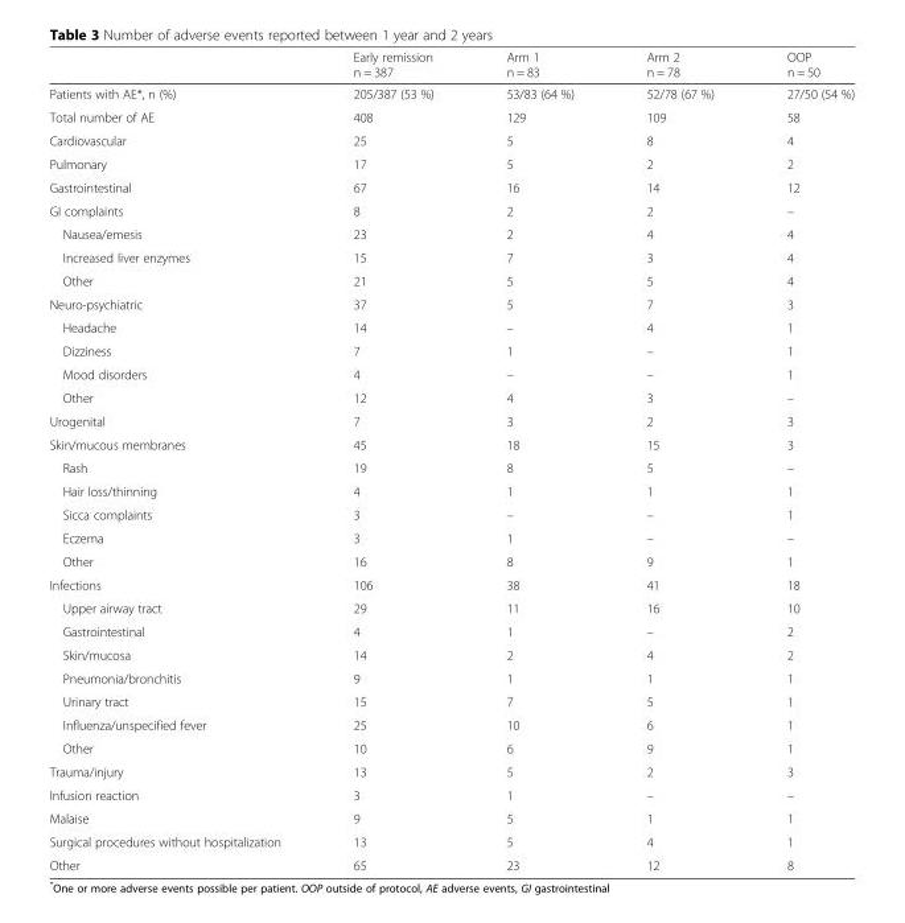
<table><thead><tr><td></td><td>Early remission n = 387</td><td>Arm 1 n = 83</td><td>Arm 2 n = 78</td><td>OOP n = 50</td></tr></thead><tbody><tr><td>Patients with AE*, n (%)</td><td>205/387 (53 %)</td><td>53/83 (64 %)</td><td>52/78 (67 %)</td><td>27/50 (54 %)</td></tr><tr><td>Total number of AE</td><td>408</td><td>129</td><td>109</td><td>58</td></tr><tr><td>Cardiovascular</td><td>25</td><td>5</td><td>8</td><td>4</td></tr><tr><td>Pulmonary</td><td>17</td><td>5</td><td>2</td><td>2</td></tr><tr><td>Gastrointestinal</td><td>67</td><td>16</td><td>14</td><td>12</td></tr><tr><td>GI complaints</td><td>8</td><td>2</td><td>2</td><td>–</td></tr><tr><td>Nausea/emesis</td><td>23</td><td>2</td><td>4</td><td>4</td></tr><tr><td>Increased liver enzymes</td><td>15</td><td>7</td><td>3</td><td>4</td></tr><tr><td>Other</td><td>21</td><td>5</td><td>5</td><td>4</td></tr><tr><td>Neuro-psychiatric</td><td>37</td><td>5</td><td>7</td><td>3</td></tr><tr><td>Headache</td><td>14</td><td>–</td><td>4</td><td>1</td></tr><tr><td>Dizziness</td><td>7</td><td>1</td><td>–</td><td>1</td></tr><tr><td>Mood disorders</td><td>4</td><td>–</td><td>–</td><td>1</td></tr><tr><td>Other</td><td>12</td><td>4</td><td>3</td><td>–</td></tr><tr><td>Urogenital</td><td>7</td><td>3</td><td>2</td><td>3</td></tr><tr><td>Skin/mucous membranes</td><td>45</td><td>18</td><td>15</td><td>3</td></tr><tr><td>Rash</td><td>19</td><td>8</td><td>5</td><td>–</td></tr><tr><td>Hair loss/thinning</td><td>4</td><td>1</td><td>1</td><td>1</td></tr><tr><td>Sicca complaints</td><td>3</td><td>–</td><td>–</td><td>1</td></tr><tr><td>Eczema</td><td>3</td><td>1</td><td>–</td><td>–</td></tr><tr><td>Other</td><td>16</td><td>8</td><td>9</td><td>1</td></tr><tr><td>Infections</td><td>106</td><td>38</td><td>41</td><td>18</td></tr><tr><td>Upper airway tract</td><td>29</td><td>11</td><td>16</td><td>10</td></tr><tr><td>Gastrointestinal</td><td>4</td><td>1</td><td>–</td><td>2</td></tr><tr><td>Skin/mucosa</td><td>14</td><td>2</td><td>4</td><td>2</td></tr><tr><td>Pneumonia/bronchitis</td><td>9</td><td>1</td><td>1</td><td>1</td></tr><tr><td>Urinary tract</td><td>15</td><td>7</td><td>5</td><td>1</td></tr><tr><td>Influenza/unspecified fever</td><td>25</td><td>10</td><td>6</td><td>1</td></tr><tr><td>Other</td><td>10</td><td>6</td><td>9</td><td>1</td></tr><tr><td>Trauma/injury</td><td>13</td><td>5</td><td>2</td><td>3</td></tr><tr><td>Infusion reaction</td><td>3</td><td>1</td><td>–</td><td>–</td></tr><tr><td>Malaise</td><td>9</td><td>5</td><td>1</td><td>1</td></tr><tr><td>Surgical procedures without hospitalization</td><td>13</td><td>5</td><td>4</td><td>1</td></tr><tr><td>Other</td><td>65</td><td>23</td><td>12</td><td>8</td></tr></tbody></table>